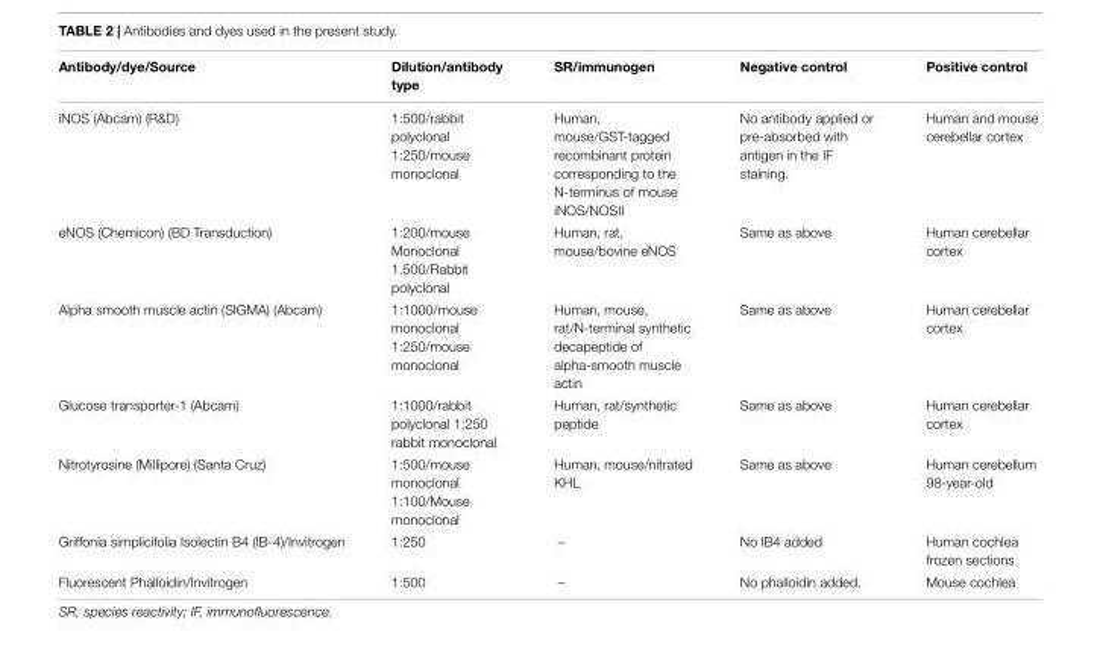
<table><thead><tr><td>Antibody/dye/Source</td><td>Dilution/antibody type</td><td>SR/immunogen</td><td>Negative control</td><td>Positive control</td></tr></thead><tbody><tr><td>iNOS (Abcam) (R&amp;D)</td><td>1:500/rabbit polyclonal 1:250/mouse monoclonal</td><td>Human, mouse/GST-tagged recombinant protein corresponding to the N-terminus of mouse iNOS/NOSII</td><td>No antibody applied or pre-absorbed with antigen in the IF staining.</td><td>Human and mouse cerebellar cortex</td></tr><tr><td>eNOS (Chemicon) (BD Transduction)</td><td>1:200/mouse Monoclonal 1.500/Rabbit polyclonal</td><td>Human, rat, mouse/bovine eNOS</td><td>Same as above</td><td>Human cerebellar cortex</td></tr><tr><td>Alpha smooth muscle actin (SIGMA) (Abcam)</td><td>1:1000/mouse monoclonal 1:250/mouse monoclonal</td><td>Human, mouse, rat/N-terminal synthetic decapeptide of alpha-smooth muscle actin</td><td>Same as above</td><td>Human cerebellar cortex</td></tr><tr><td>Glucose transporter-1 (Abcam)</td><td>1:1000/rabbit polyclonal 1:250 rabbit monoclonal</td><td>Human, rat/synthetic peptide</td><td>Same as above</td><td>Human cerebellar cortex</td></tr><tr><td>Nitrotyrosine (Millipore) (Santa Cruz)</td><td>1:500/mouse monoclonal 1:100/Mouse monoclonal</td><td>Human, mouse/nitrated KHL</td><td>Same as above</td><td>Human cerebellum 98-year-old</td></tr><tr><td>Griffonia simplicifolia Isolectin B4 (IB-4)/Invitrogen</td><td>1:250</td><td>–</td><td>No IB4 added</td><td>Human cochlea frozen sections</td></tr><tr><td>Fluorescent Phalloidin/Invitrogen</td><td>1:500</td><td>–</td><td>No phalloidin added.</td><td>Mouse cochlea</td></tr></tbody></table>